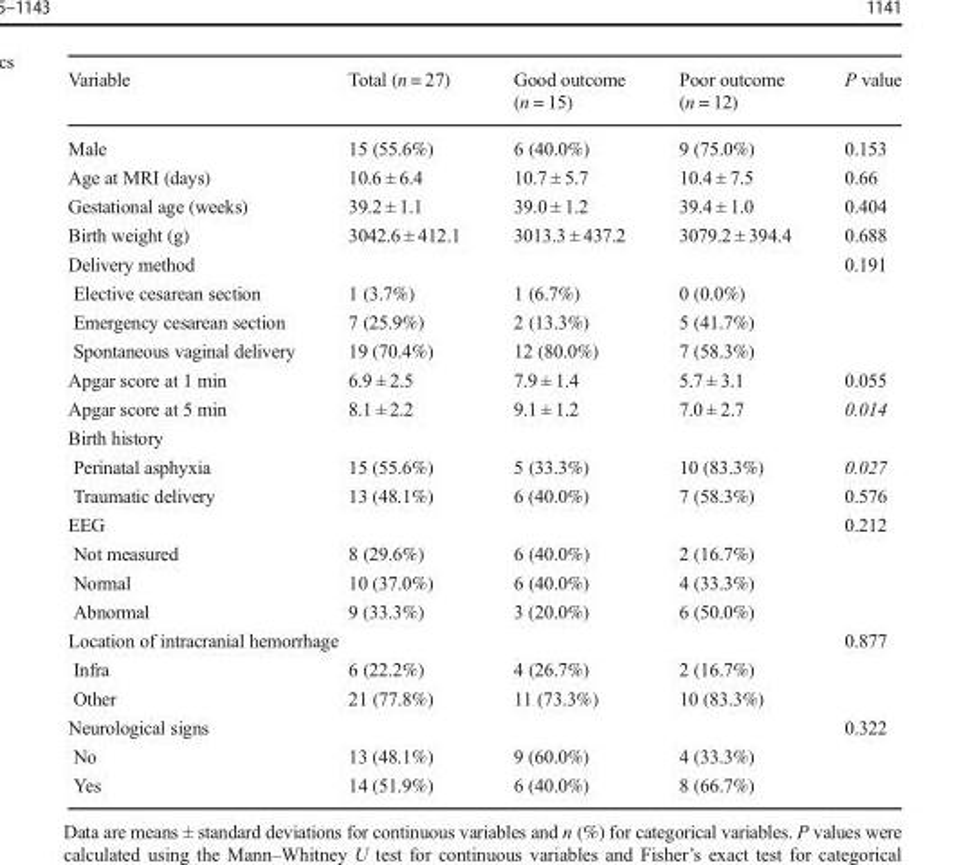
<table><thead><tr><td>Variable</td><td>Total (n = 27)</td><td>Good outcome (n = 15)</td><td>Poor outcome (n = 12)</td><td>P value</td></tr></thead><tbody><tr><td>Male</td><td>15 (55.6%)</td><td>6 (40.0%)</td><td>9 (75.0%)</td><td>0.153</td></tr><tr><td>Age at MRI (days)</td><td>10.6 ± 6.4</td><td>10.7 ± 5.7</td><td>10.4 ± 7.5</td><td>0.66</td></tr><tr><td>Gestational age (weeks)</td><td>39.2 ± 1.1</td><td>39.0 ± 1.2</td><td>39.4 ± 1.0</td><td>0.404</td></tr><tr><td>Birth weight (g)</td><td>3042.6 ± 412.1</td><td>3013.3 ± 437.2</td><td>3079.2 ± 394.4</td><td>0.688</td></tr><tr><td colspan="4">Delivery method</td><td>0.191</td></tr><tr><td>Elective cesarean section</td><td>1 (3.7%)</td><td>1 (6.7%)</td><td>0 (0.0%)</td><td></td></tr><tr><td>Emergency cesarean section</td><td>7 (25.9%)</td><td>2 (13.3%)</td><td>5 (41.7%)</td><td></td></tr><tr><td>Spontaneous vaginal delivery</td><td>19 (70.4%)</td><td>12 (80.0%)</td><td>7 (58.3%)</td><td></td></tr><tr><td>Apgar score at 1 min</td><td>6.9 ± 2.5</td><td>7.9 ± 1.4</td><td>5.7 ± 3.1</td><td>0.055</td></tr><tr><td>Apgar score at 5 min</td><td>8.1 ± 2.2</td><td>9.1 ± 1.2</td><td>7.0 ± 2.7</td><td>0.014</td></tr><tr><td colspan="5">Birth history</td></tr><tr><td>Perinatal asphyxia</td><td>15 (55.6%)</td><td>5 (33.3%)</td><td>10 (83.3%)</td><td>0.027</td></tr><tr><td>Traumatic delivery</td><td>13 (48.1%)</td><td>6 (40.0%)</td><td>7 (58.3%)</td><td>0.576</td></tr><tr><td colspan="4">EEG</td><td>0.212</td></tr><tr><td>Not measured</td><td>8 (29.6%)</td><td>6 (40.0%)</td><td>2 (16.7%)</td><td></td></tr><tr><td>Normal</td><td>10 (37.0%)</td><td>6 (40.0%)</td><td>4 (33.3%)</td><td></td></tr><tr><td>Abnormal</td><td>9 (33.3%)</td><td>3 (20.0%)</td><td>6 (50.0%)</td><td></td></tr><tr><td colspan="4">Location of intracranial hemorrhage</td><td>0.877</td></tr><tr><td>Infra</td><td>6 (22.2%)</td><td>4 (26.7%)</td><td>2 (16.7%)</td><td></td></tr><tr><td>Other</td><td>21 (77.8%)</td><td>11 (73.3%)</td><td>10 (83.3%)</td><td></td></tr><tr><td colspan="4">Neurological signs</td><td>0.322</td></tr><tr><td>No</td><td>13 (48.1%)</td><td>9 (60.0%)</td><td>4 (33.3%)</td><td></td></tr><tr><td>Yes</td><td>14 (51.9%)</td><td>6 (40.0%)</td><td>8 (66.7%)</td><td></td></tr></tbody></table>